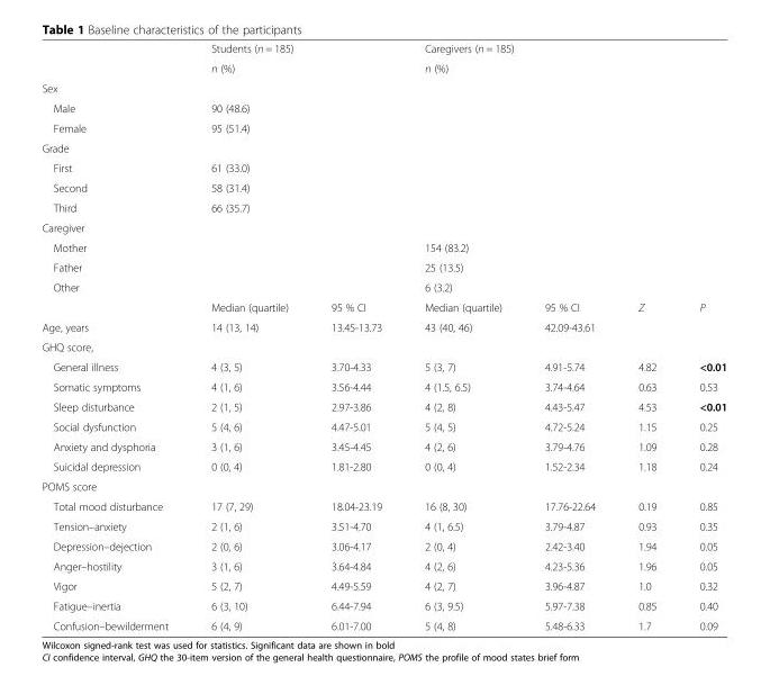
<table><thead><tr><td></td><td colspan="2">Students (n = 185)</td><td colspan="2">Caregivers (n = 185)</td><td></td><td></td></tr></thead><tbody><tr><td></td><td colspan="2">n (%)</td><td colspan="2">n (%)</td><td></td><td></td></tr><tr><td colspan="7">Sex</td></tr><tr><td>Male</td><td colspan="2">90 (48.6)</td><td colspan="2"></td><td></td><td></td></tr><tr><td>Female</td><td colspan="2">95 (51.4)</td><td colspan="2"></td><td></td><td></td></tr><tr><td colspan="7">Grade</td></tr><tr><td>First</td><td colspan="2">61 (33.0)</td><td colspan="2"></td><td></td><td></td></tr><tr><td>Second</td><td colspan="2">58 (31.4)</td><td colspan="2"></td><td></td><td></td></tr><tr><td>Third</td><td colspan="2">66 (35.7)</td><td colspan="2"></td><td></td><td></td></tr><tr><td colspan="7">Caregiver</td></tr><tr><td>Mother</td><td colspan="2"></td><td colspan="2">154 (83.2)</td><td></td><td></td></tr><tr><td>Father</td><td colspan="2"></td><td colspan="2">25 (13.5)</td><td></td><td></td></tr><tr><td rowspan="2">Other</td><td colspan="2"></td><td colspan="2">6 (3.2)</td><td></td><td></td></tr><tr><td>Median (quartile)</td><td>95 % CI</td><td>Median (quartile)</td><td>95 % CI</td><td>Z</td><td>P</td></tr><tr><td>Age, years</td><td>14 (13, 14)</td><td>13.45-13.73</td><td>43 (40, 46)</td><td>42.09-43.61</td><td></td><td></td></tr><tr><td colspan="7">GHQ score,</td></tr><tr><td>General illness</td><td>4 (3, 5)</td><td>3.70-4.33</td><td>5 (3, 7)</td><td>4.91-5.74</td><td>4.82</td><td>&lt;0.01</td></tr><tr><td>Somatic symptoms</td><td>4 (1, 6)</td><td>3.56-4.44</td><td>4 (1.5, 6.5)</td><td>3.74-4.64</td><td>0.63</td><td>0.53</td></tr><tr><td>Sleep disturbance</td><td>2 (1, 5)</td><td>2.97-3.86</td><td>4 (2, 8)</td><td>4.43-5.47</td><td>4.53</td><td>&lt;0.01</td></tr><tr><td>Social dysfunction</td><td>5 (4, 6)</td><td>4.47-5.01</td><td>5 (4, 5)</td><td>4.72-5.24</td><td>1.15</td><td>0.25</td></tr><tr><td>Anxiety and dysphoria</td><td>3 (1, 6)</td><td>3.45-4.45</td><td>4 (2, 6)</td><td>3.79-4.76</td><td>1.09</td><td>0.28</td></tr><tr><td>Suicidal depression</td><td>0 (0, 4)</td><td>1.81-2.80</td><td>0 (0, 4)</td><td>1.52-2.34</td><td>1.18</td><td>0.24</td></tr><tr><td colspan="7">POMS score</td></tr><tr><td>Total mood disturbance</td><td>17 (7, 29)</td><td>18.04-23.19</td><td>16 (8, 30)</td><td>17.76-22.64</td><td>0.19</td><td>0.85</td></tr><tr><td>Tension–anxiety</td><td>2 (1, 6)</td><td>3.51-4.70</td><td>4 (1, 6.5)</td><td>3.79-4.87</td><td>0.93</td><td>0.35</td></tr><tr><td>Depression–dejection</td><td>2 (0, 6)</td><td>3.06-4.17</td><td>2 (0, 4)</td><td>2.42-3.40</td><td>1.94</td><td>0.05</td></tr><tr><td>Anger–hostility</td><td>3 (1, 6)</td><td>3.64-4.84</td><td>4 (2, 6)</td><td>4.23-5.36</td><td>1.96</td><td>0.05</td></tr><tr><td>Vigor</td><td>5 (2, 7)</td><td>4.49-5.59</td><td>4 (2, 7)</td><td>3.96-4.87</td><td>1.0</td><td>0.32</td></tr><tr><td>Fatigue–inertia</td><td>6 (3, 10)</td><td>6.44-7.94</td><td>6 (3, 9.5)</td><td>5.97-7.38</td><td>0.85</td><td>0.40</td></tr><tr><td>Confusion–bewilderment</td><td>6 (4, 9)</td><td>6.01-7.00</td><td>5 (4, 8)</td><td>5.48-6.33</td><td>1.7</td><td>0.09</td></tr></tbody></table>